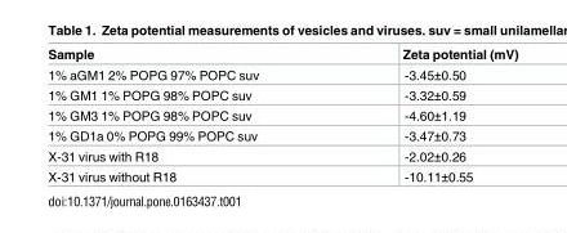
<table><thead><tr><td>Sample</td><td>Zeta potential (mV)</td></tr></thead><tbody><tr><td>1% aGM1 2% POPG 97% POPC suv</td><td>-3.45±0.50</td></tr><tr><td>1% GM1 1% POPG 98% POPC suv</td><td>-3.32±0.59</td></tr><tr><td>1% GM3 1% POPG 98% POPC suv</td><td>-4.60±1.19</td></tr><tr><td>1% GD1a 0% POPG 99% POPC suv</td><td>-3.47±0.73</td></tr><tr><td>X-31 virus with R18</td><td>-2.02±0.26</td></tr><tr><td>X-31 virus without R18</td><td>-10.11±0.55</td></tr></tbody></table>